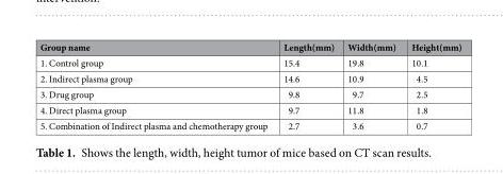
<table><thead><tr><td>Group name</td><td>Length(mm)</td><td>Width(mm)</td><td>Height(mm)</td></tr></thead><tbody><tr><td>1. Control group</td><td>15.4</td><td>19.8</td><td>10.1</td></tr><tr><td>2. Indirect plasma group</td><td>14.6</td><td>10.9</td><td>4.5</td></tr><tr><td>3. Drug group</td><td>9.8</td><td>9.7</td><td>2.5</td></tr><tr><td>4. Direct plasma group</td><td>9.7</td><td>11.8</td><td>1.8</td></tr><tr><td>5. Combination of Indirect plasma and chemotherapy group</td><td>2.7</td><td>3.6</td><td>0.7</td></tr></tbody></table>